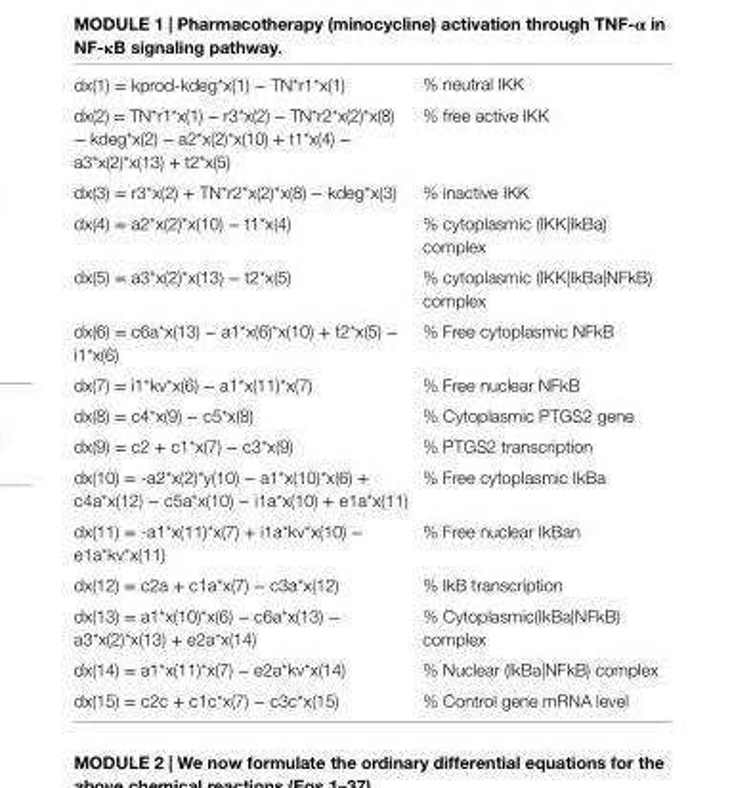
<table><tbody><tr><td>dx(1) = kprod-kdeg*x(1) − TN*r1*x(1)</td><td>% neutral IKK</td></tr><tr><td>dx(2) = TN*r1*x(1) − r3*x(2) − TN*r2*x(2)*x(8) − kdeg*x(2) − a2*x(2)*x(10) + t1*x(4) − a3*x(2)*x(13) + t2*x(5)</td><td>% free active IKK</td></tr><tr><td>dx(3) = r3*x(2) + TN*r2*x(2)*x(8) − kdeg*x(3)</td><td>% inactive IKK</td></tr><tr><td>dx(4) = a2*x(2)*x(10) − t1*x(4)</td><td>% cytoplasmic (IKK|IkBa) complex</td></tr><tr><td>dx(5) = a3*x(2)*x(13) − t2*x(5)</td><td>% cytoplasmic (IKK|IkBa|NFkB) complex</td></tr><tr><td>dx(6) = c6a*x(13) − a1*x(6)*x(10) + t2*x(5) − i1*x(6)</td><td>% Free cytoplasmic NFkB</td></tr><tr><td>dx(7) = i1*kv*x(6) − a1*x(11)*x(7)</td><td>% Free nuclear NFkB</td></tr><tr><td>dx(8) = c4*x(9) − c5*x(8)</td><td>% Cytoplasmic PTGS2 gene</td></tr><tr><td>dx(9) = c2 + c1*x(7) − c3*x(9)</td><td>% PTGS2 transcription</td></tr><tr><td>dx(10) = -a2*x(2)*y(10) − a1*x(10)*x(6) + c4a*x(12) − c5a*x(10) − i1a*x(10) + e1a*x(11)</td><td>% Free cytoplasmic IkBa</td></tr><tr><td>dx(11) = -a1*x(11)*x(7) + i1a*kv*x(10) − e1a*kv*x(11)</td><td>% Free nuclear IkBan</td></tr><tr><td>dx(12) = c2a + c1a*x(7) − c3a*x(12)</td><td>% IkB transcription</td></tr><tr><td>dx(13) = a1*x(10)*x(6) − c6a*x(13) − a3*x(2)*x(13) + e2a*x(14)</td><td>% Cytoplasmic(IkBa|NFkB) complex</td></tr><tr><td>dx(14) = a1*x(11)*x(7) − e2a*kv*x(14)</td><td>% Nuclear (IkBa|NFkB) complex</td></tr><tr><td>dx(15) = c2c + c1c*x(7) − c3c*x(15)</td><td>% Control gene mRNA level</td></tr></tbody></table>